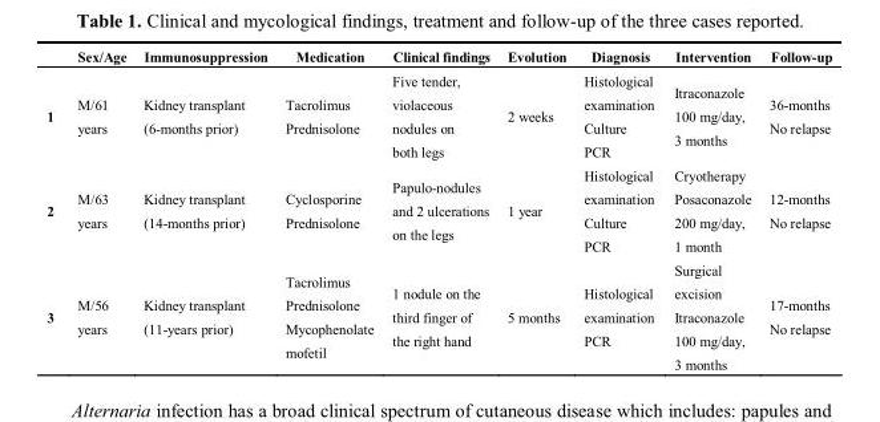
<table><thead><tr><td></td><td>Sex/Age</td><td>Immunosuppression</td><td>Medication</td><td>Clinical findings</td><td>Evolution</td><td>Diagnosis</td><td>Intervention</td><td>Follow-up</td></tr></thead><tbody><tr><td>1</td><td>M/61 years</td><td>Kidney transplant (6-months prior)</td><td>Tacrolimus Prednisolone</td><td>Five tender, violaceous nodules on both legs</td><td>2 weeks</td><td>Histological examination Culture PCR</td><td>Itraconazole 100 mg/day, 3 months</td><td>36-months No relapse</td></tr><tr><td>2</td><td>M/63 years</td><td>Kidney transplant (14-months prior)</td><td>Cyclosporine Prednisolone</td><td>Papulo-nodules and 2 ulcerations on the legs</td><td>1 year</td><td>Histological examination Culture PCR</td><td>Cryotherapy Posaconazole 200 mg/day, 1 month</td><td>12-months No relapse</td></tr><tr><td>3</td><td>M/56 years</td><td>Kidney transplant (11-years prior)</td><td>Tacrolimus Prednisolone Mycophenolate mofetil</td><td>1 nodule on the third finger of the right hand</td><td>5 months</td><td>Histological examination PCR</td><td>Surgical excision Itraconazole 100 mg/day, 3 months</td><td>17-months No relapse</td></tr></tbody></table>